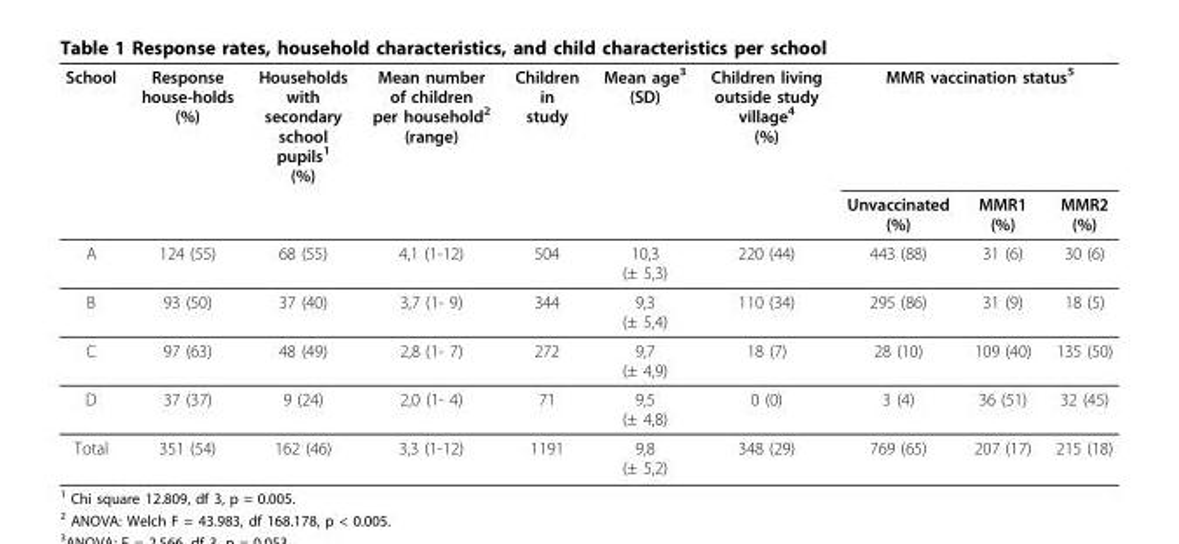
<table><thead><tr><td rowspan="2">School</td><td rowspan="2">Response house-holds (%)</td><td rowspan="2">Households with secondary school pupils<sup>1</sup> (%)</td><td rowspan="2">Mean number of children per household<sup>2</sup> (range)</td><td rowspan="2">Children in study</td><td rowspan="2">Mean age<sup>3</sup> (SD)</td><td rowspan="2">Children living outside study village<sup>4</sup> (%)</td><td colspan="3">MMR vaccination status<sup>5</sup></td></tr><tr><td>Unvaccinated (%)</td><td>MMR1 (%)</td><td>MMR2 (%)</td></tr></thead><tbody><tr><td>A</td><td>124 (55)</td><td>68 (55)</td><td>4,1 (1-12)</td><td>504</td><td>10,3 (± 5,3)</td><td>220 (44)</td><td>443 (88)</td><td>31 (6)</td><td>30 (6)</td></tr><tr><td>B</td><td>93 (50)</td><td>37 (40)</td><td>3,7 (1- 9)</td><td>344</td><td>9,3 (± 5,4)</td><td>110 (34)</td><td>295 (86)</td><td>31 (9)</td><td>18 (5)</td></tr><tr><td>C</td><td>97 (63)</td><td>48 (49)</td><td>2,8 (1- 7)</td><td>272</td><td>9,7 (± 4,9)</td><td>18 (7)</td><td>28 (10)</td><td>109 (40)</td><td>135 (50)</td></tr><tr><td>D</td><td>37 (37)</td><td>9 (24)</td><td>2,0 (1- 4)</td><td>71</td><td>9,5 (± 4,8)</td><td>0 (0)</td><td>3 (4)</td><td>36 (51)</td><td>32 (45)</td></tr><tr><td>Total</td><td>351 (54)</td><td>162 (46)</td><td>3,3 (1-12)</td><td>1191</td><td>9,8 (± 5,2)</td><td>348 (29)</td><td>769 (65)</td><td>207 (17)</td><td>215 (18)</td></tr></tbody></table>